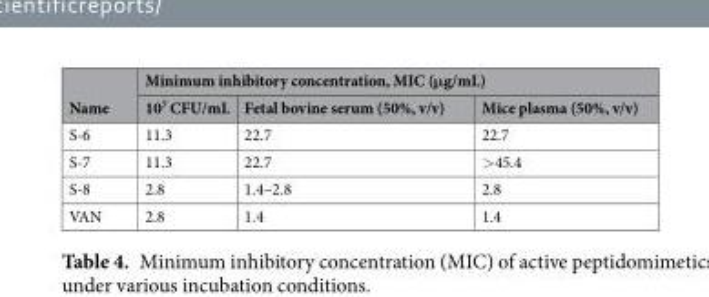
<table><thead><tr><td rowspan="2">Name</td><td colspan="3">Minimum inhibitory concentration, MIC (μg/mL)</td></tr><tr><td>10<sup>7</sup> CFU/mL</td><td>Fetal bovine serum (50%, v/v)</td><td>Mice plasma (50%, v/v)</td></tr></thead><tbody><tr><td>S-6</td><td>11.3</td><td>22.7</td><td>22.7</td></tr><tr><td>S-7</td><td>11.3</td><td>22.7</td><td>&gt;45.4</td></tr><tr><td>S-8</td><td>2.8</td><td>1.4–2.8</td><td>2.8</td></tr><tr><td>VAN</td><td>2.8</td><td>1.4</td><td>1.4</td></tr></tbody></table>